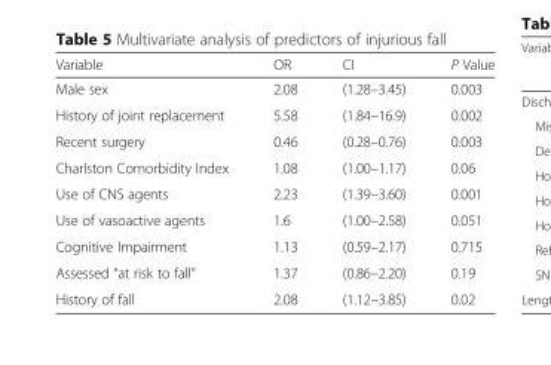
<table><thead><tr><td>Variable</td><td>OR</td><td>CI</td><td>P Value</td></tr></thead><tbody><tr><td>Male sex</td><td>2.08</td><td>(1.28–3.45)</td><td>0.003</td></tr><tr><td>History of joint replacement</td><td>5.58</td><td>(1.84–16.9)</td><td>0.002</td></tr><tr><td>Recent surgery</td><td>0.46</td><td>(0.28–0.76)</td><td>0.003</td></tr><tr><td>Charlston Comorbidity Index</td><td>1.08</td><td>(1.00–1.17)</td><td>0.06</td></tr><tr><td>Use of CNS agents</td><td>2.23</td><td>(1.39–3.60)</td><td>0.001</td></tr><tr><td>Use of vasoactive agents</td><td>1.6</td><td>(1.00–2.58)</td><td>0.051</td></tr><tr><td>Cognitive Impairment</td><td>1.13</td><td>(0.59–2.17)</td><td>0.715</td></tr><tr><td>Assessed “at risk to fall”</td><td>1.37</td><td>(0.86–2.20)</td><td>0.19</td></tr><tr><td>History of fall</td><td>2.08</td><td>(1.12–3.85)</td><td>0.02</td></tr></tbody></table>